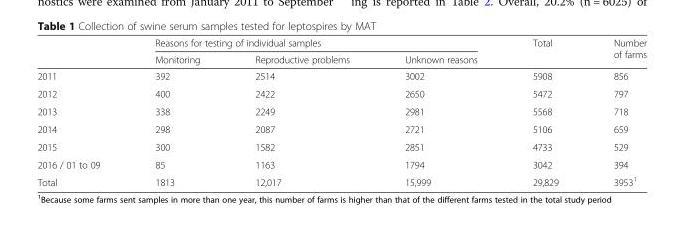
<table><thead><tr><td rowspan="2"></td><td colspan="3">Reasons for testing of individual samples</td><td rowspan="2">Total</td><td rowspan="2">Number of farms</td></tr><tr><td>Monitoring</td><td>Reproductive problems</td><td>Unknown reasons</td></tr></thead><tbody><tr><td>2011</td><td>392</td><td>2514</td><td>3002</td><td>5908</td><td>856</td></tr><tr><td>2012</td><td>400</td><td>2422</td><td>2650</td><td>5472</td><td>797</td></tr><tr><td>2013</td><td>338</td><td>2249</td><td>2981</td><td>5568</td><td>718</td></tr><tr><td>2014</td><td>298</td><td>2087</td><td>2721</td><td>5106</td><td>659</td></tr><tr><td>2015</td><td>300</td><td>1582</td><td>2851</td><td>4733</td><td>529</td></tr><tr><td>2016 / 01 to 09</td><td>85</td><td>1163</td><td>1794</td><td>3042</td><td>394</td></tr><tr><td>Total</td><td>1813</td><td>12,017</td><td>15,999</td><td>29,829</td><td>3953<sup>1</sup></td></tr></tbody></table>